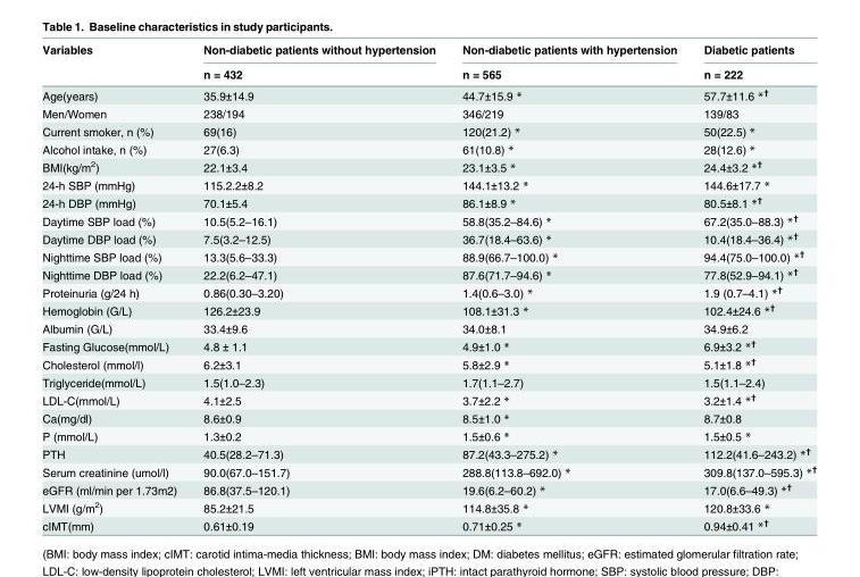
<table><thead><tr><td rowspan="2">Variables</td><td rowspan="2">Non-diabetic patients without hypertension n = 432</td><td rowspan="2">Non-diabetic patients with hypertension n = 565</td><td rowspan="2">Diabetic patients n = 222</td></tr><tr></tr></thead><tbody><tr><td>Age(years)</td><td>35.9±14.9</td><td>44.7±15.9 *</td><td>57.7±11.6 *<sup>†</sup></td></tr><tr><td>Men/Women</td><td>238/194</td><td>346/219</td><td>139/83</td></tr><tr><td>Current smoker, n (%)</td><td>69(16)</td><td>120(21.2) *</td><td>50(22.5) *</td></tr><tr><td>Alcohol intake, n (%)</td><td>27(6.3)</td><td>61(10.8) *</td><td>28(12.6) *</td></tr><tr><td>BMI(kg/m<sup>2</sup>)</td><td>22.1±3.4</td><td>23.1±3.5 *</td><td>24.4±3.2 *<sup>†</sup></td></tr><tr><td>24-h SBP (mmHg)</td><td>115.2.2±8.2</td><td>144.1±13.2 *</td><td>144.6±17.7 *</td></tr><tr><td>24-h DBP (mmHg)</td><td>70.1±5.4</td><td>86.1±8.9 *</td><td>80.5±8.1 *<sup>†</sup></td></tr><tr><td>Daytime SBP load (%)</td><td>10.5(5.2–16.1)</td><td>58.8(35.2–84.6) *</td><td>67.2(35.0–88.3) *<sup>†</sup></td></tr><tr><td>Daytime DBP load (%)</td><td>7.5(3.2–12.5)</td><td>36.7(18.4–63.6) *</td><td>10.4(18.4–36.4) *<sup>†</sup></td></tr><tr><td>Nighttime SBP load (%)</td><td>13.3(5.6–33.3)</td><td>88.9(66.7–100.0) *</td><td>94.4(75.0–100.0) *<sup>†</sup></td></tr><tr><td>Nighttime DBP load (%)</td><td>22.2(6.2–47.1)</td><td>87.6(71.7–94.6) *</td><td>77.8(52.9–94.1) *<sup>†</sup></td></tr><tr><td>Proteinuria (g/24 h)</td><td>0.86(0.30–3.20)</td><td>1.4(0.6–3.0) *</td><td>1.9 (0.7–4.1) *<sup>†</sup></td></tr><tr><td>Hemoglobin (G/L)</td><td>126.2±23.9</td><td>108.1±31.3 *</td><td>102.4±24.6 *<sup>†</sup></td></tr><tr><td>Albumin (G/L)</td><td>33.4±9.6</td><td>34.0±8.1</td><td>34.9±6.2</td></tr><tr><td>Fasting Glucose(mmol/L)</td><td>4.8 ± 1.1</td><td>4.9±1.0 *</td><td>6.9±3.2 *<sup>†</sup></td></tr><tr><td>Cholesterol (mmol/l)</td><td>6.2±3.1</td><td>5.8±2.9 *</td><td>5.1±1.8 *<sup>†</sup></td></tr><tr><td>Triglyceride(mmol/L)</td><td>1.5(1.0–2.3)</td><td>1.7(1.1–2.7)</td><td>1.5(1.1–2.4)</td></tr><tr><td>LDL-C(mmol/L)</td><td>4.1±2.5</td><td>3.7±2.2 *</td><td>3.2±1.4 *<sup>†</sup></td></tr><tr><td>Ca(mg/dl)</td><td>8.6±0.9</td><td>8.5±1.0 *</td><td>8.7±0.8</td></tr><tr><td>P (mmol/L)</td><td>1.3±0.2</td><td>1.5±0.6 *</td><td>1.5±0.5 *</td></tr><tr><td>PTH</td><td>40.5(28.2–71.3)</td><td>87.2(43.3–275.2) *</td><td>112.2(41.6–243.2) *<sup>†</sup></td></tr><tr><td>Serum creatinine (umol/l)</td><td>90.0(67.0–151.7)</td><td>288.8(113.8–692.0) *</td><td>309.8(137.0–595.3) *<sup>†</sup></td></tr><tr><td>eGFR (ml/min per 1.73m2)</td><td>86.8(37.5–120.1)</td><td>19.6(6.2–60.2) *</td><td>17.0(6.6–49.3) *<sup>†</sup></td></tr><tr><td>LVMI (g/m<sup>2</sup>)</td><td>85.2±21.5</td><td>114.8±35.8 *</td><td>120.8±33.6 *</td></tr><tr><td>cIMT(mm)</td><td>0.61±0.19</td><td>0.71±0.25 *</td><td>0.94±0.41 *<sup>†</sup></td></tr></tbody></table>